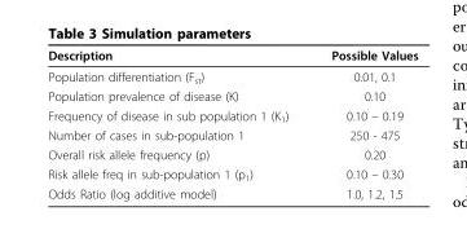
<table><thead><tr><td>Description</td><td>Possible Values</td></tr></thead><tbody><tr><td>Population differentiation (F<sub>st</sub>)</td><td>0.01, 0.1</td></tr><tr><td>Population prevalence of disease (K)</td><td>0.10</td></tr><tr><td>Frequency of disease in sub population 1 (K<sub>1</sub>)</td><td>0.10 – 0.19</td></tr><tr><td>Number of cases in sub-population 1</td><td>250 - 475</td></tr><tr><td>Overall risk allele frequency (p)</td><td>0.20</td></tr><tr><td>Risk allele freq in sub-population 1 (p<sub>1</sub>)</td><td>0.10 – 0.30</td></tr><tr><td>Odds Ratio (log additive model)</td><td>1.0, 1.2, 1.5</td></tr></tbody></table>